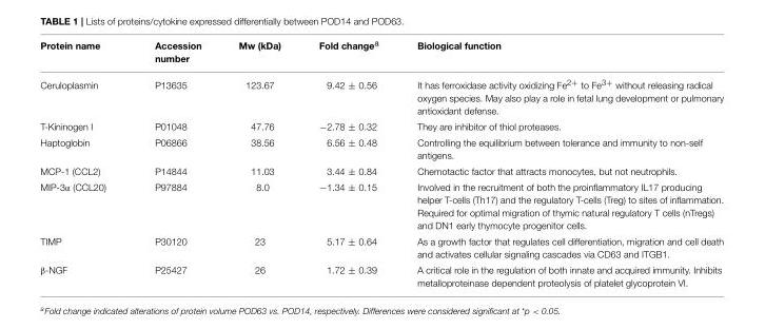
<table><thead><tr><td>Protein name</td><td>Accession number</td><td>Mw (kDa)</td><td>Fold change<sup>a</sup></td><td>Biological function</td></tr></thead><tbody><tr><td>Ceruloplasmin</td><td>P13635</td><td>123.67</td><td>9.42 ± 0.56</td><td>It has ferroxidase activity oxidizing Fe<sup>2+</sup> to Fe<sup>3+</sup> without releasing radical oxygen species. May also play a role in fetal lung development or pulmonary antioxidant defense.</td></tr><tr><td>T-Kininogen I</td><td>P01048</td><td>47.76</td><td>−2.78 ± 0.32</td><td>They are inhibitor of thiol proteases.</td></tr><tr><td>Haptoglobin</td><td>P06866</td><td>38.56</td><td>6.56 ± 0.48</td><td>Controlling the equilibrium between tolerance and immunity to non-self antigens.</td></tr><tr><td>MCP-1 (CCL2)</td><td>P14844</td><td>11.03</td><td>3.44 ± 0.84</td><td>Chemotactic factor that attracts monocytes, but not neutrophils.</td></tr><tr><td>MIP-3α (CCL20)</td><td>P97884</td><td>8.0</td><td>−1.34 ± 0.15</td><td>Involved in the recruitment of both the proinflammatory IL17 producing helper T-cells (Th17) and the regulatory T-cells (Treg) to sites of inflammation. Required for optimal migration of thymic natural regulatory T cells (nTregs) and DN1 early thymocyte progenitor cells.</td></tr><tr><td>TIMP</td><td>P30120</td><td>23</td><td>5.17 ± 0.64</td><td>As a growth factor that regulates cell differentiation, migration and cell death and activates cellular signaling cascades via CD63 and ITGB1.</td></tr><tr><td>β-NGF</td><td>P25427</td><td>26</td><td>1.72 ± 0.39</td><td>A critical role in the regulation of both innate and acquired immunity. Inhibits metalloproteinase dependent proteolysis of platelet glycoprotein VI.</td></tr></tbody></table>